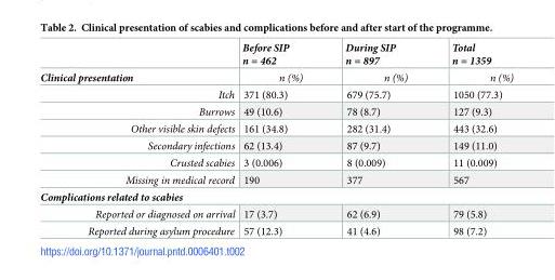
<table><thead><tr><td></td><td>Before SIP n = 462</td><td>During SIP n = 897</td><td>Total n = 1359</td></tr></thead><tbody><tr><td>Clinical presentation</td><td>n (%)</td><td>n (%)</td><td>n (%)</td></tr><tr><td>Itch</td><td>371 (80.3)</td><td>679 (75.7)</td><td>1050 (77.3)</td></tr><tr><td>Burrows</td><td>49 (10.6)</td><td>78 (8.7)</td><td>127 (9.3)</td></tr><tr><td>Other visible skin defects</td><td>161 (34.8)</td><td>282 (31.4)</td><td>443 (32.6)</td></tr><tr><td>Secondary infections</td><td>62 (13.4)</td><td>87 (9.7)</td><td>149 (11.0)</td></tr><tr><td>Crusted scabies</td><td>3 (0.006)</td><td>8 (0.009)</td><td>11 (0.009)</td></tr><tr><td>Missing in medical record</td><td>190</td><td>377</td><td>567</td></tr><tr><td colspan="4">Complications related to scabies</td></tr><tr><td>Reported or diagnosed on arrival</td><td>17 (3.7)</td><td>62 (6.9)</td><td>79 (5.8)</td></tr><tr><td>Reported during asylum procedure</td><td>57 (12.3)</td><td>41 (4.6)</td><td>98 (7.2)</td></tr></tbody></table>